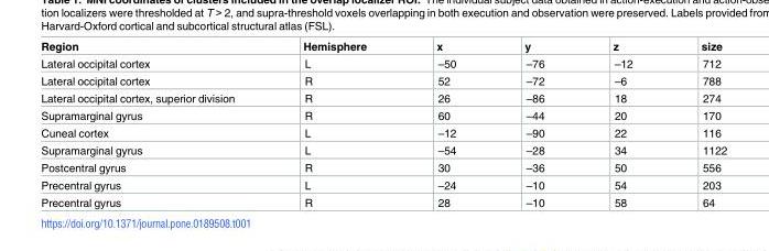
<table><thead><tr><td>Region</td><td>Hemisphere</td><td>x</td><td>y</td><td>z</td><td>size</td></tr></thead><tbody><tr><td>Lateral occipital cortex</td><td>L</td><td>–50</td><td>–76</td><td>–12</td><td>712</td></tr><tr><td>Lateral occipital cortex</td><td>R</td><td>52</td><td>–72</td><td>–6</td><td>788</td></tr><tr><td>Lateral occipital cortex, superior division</td><td>R</td><td>26</td><td>–86</td><td>18</td><td>274</td></tr><tr><td>Supramarginal gyrus</td><td>R</td><td>60</td><td>–44</td><td>20</td><td>170</td></tr><tr><td>Cuneal cortex</td><td>L</td><td>–12</td><td>–90</td><td>22</td><td>116</td></tr><tr><td>Supramarginal gyrus</td><td>L</td><td>–54</td><td>–28</td><td>34</td><td>1122</td></tr><tr><td>Postcentral gyrus</td><td>R</td><td>30</td><td>–36</td><td>50</td><td>556</td></tr><tr><td>Precentral gyrus</td><td>L</td><td>–24</td><td>–10</td><td>54</td><td>203</td></tr><tr><td>Precentral gyrus</td><td>R</td><td>28</td><td>–10</td><td>58</td><td>64</td></tr></tbody></table>